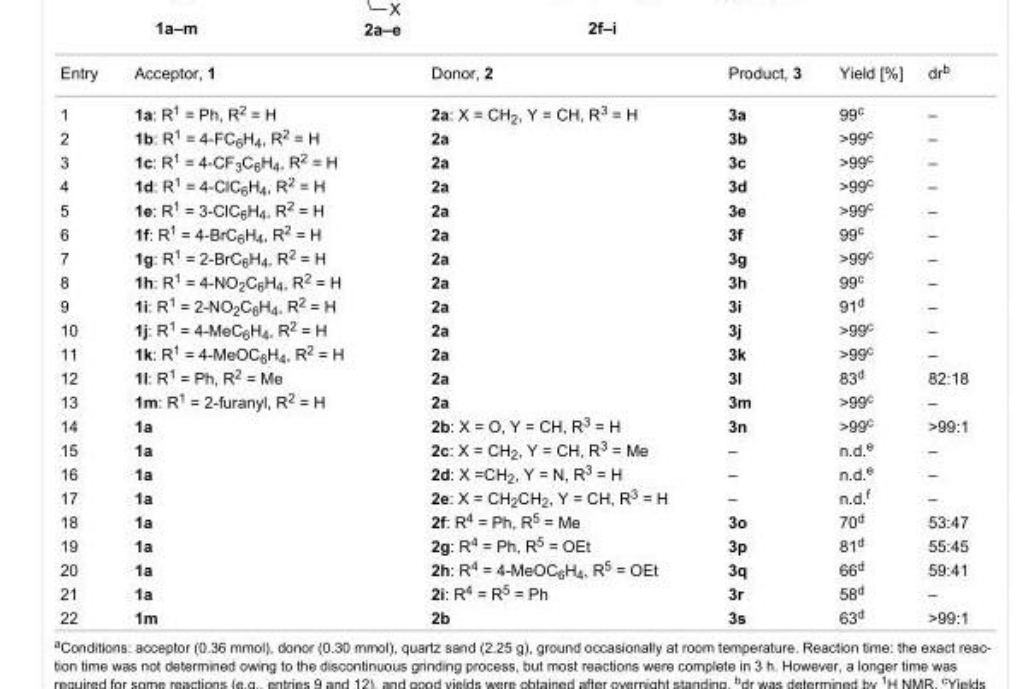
<table><tbody><tr><td>Entry</td><td>Acceptor, 1</td><td>Donor, 2</td><td>Product, 3</td><td>Yield [%]</td><td>dr<sup>b</sup></td></tr><tr><td>1</td><td>1a: R<sup>1</sup> = Ph, R<sup>2</sup> = H</td><td>2a: X = CH<sub>2</sub>, Y = CH, R<sup>3</sup> = H</td><td>3a</td><td>99<sup>c</sup></td><td>–</td></tr><tr><td>2</td><td>1b: R<sup>1</sup> = 4-FC<sub>6</sub>H<sub>4</sub>, R<sup>2</sup> = H</td><td>2a</td><td>3b</td><td>&gt;99<sup>c</sup></td><td>–</td></tr><tr><td>3</td><td>1c: R<sup>1</sup> = 4-CF<sub>3</sub>C<sub>6</sub>H<sub>4</sub>, R<sup>2</sup> = H</td><td>2a</td><td>3c</td><td>&gt;99<sup>c</sup></td><td>–</td></tr><tr><td>4</td><td>1d: R<sup>1</sup> = 4-ClC<sub>6</sub>H<sub>4</sub>, R<sup>2</sup> = H</td><td>2a</td><td>3d</td><td>&gt;99<sup>c</sup></td><td>–</td></tr><tr><td>5</td><td>1e: R<sup>1</sup> = 3-ClC<sub>6</sub>H<sub>4</sub>, R<sup>2</sup> = H</td><td>2a</td><td>3e</td><td>&gt;99<sup>c</sup></td><td>–</td></tr><tr><td>6</td><td>1f: R<sup>1</sup> = 4-BrC<sub>6</sub>H<sub>4</sub>, R<sup>2</sup> = H</td><td>2a</td><td>3f</td><td>99<sup>c</sup></td><td>–</td></tr><tr><td>7</td><td>1g: R<sup>1</sup> = 2-BrC<sub>6</sub>H<sub>4</sub>, R<sup>2</sup> = H</td><td>2a</td><td>3g</td><td>&gt;99<sup>c</sup></td><td>–</td></tr><tr><td>8</td><td>1h: R<sup>1</sup> = 4-NO<sub>2</sub>C<sub>6</sub>H<sub>4</sub>, R<sup>2</sup> = H</td><td>2a</td><td>3h</td><td>99<sup>c</sup></td><td>–</td></tr><tr><td>9</td><td>1i: R<sup>1</sup> = 2-NO<sub>2</sub>C<sub>6</sub>H<sub>4</sub>, R<sup>2</sup> = H</td><td>2a</td><td>3i</td><td>91<sup>d</sup></td><td>–</td></tr><tr><td>10</td><td>1j: R<sup>1</sup> = 4-MeC<sub>6</sub>H<sub>4</sub>, R<sup>2</sup> = H</td><td>2a</td><td>3j</td><td>&gt;99<sup>c</sup></td><td>–</td></tr><tr><td>11</td><td>1k: R<sup>1</sup> = 4-MeOC<sub>6</sub>H<sub>4</sub>, R<sup>2</sup> = H</td><td>2a</td><td>3k</td><td>&gt;99<sup>c</sup></td><td>–</td></tr><tr><td>12</td><td>1l: R<sup>1</sup> = Ph, R<sup>2</sup> = Me</td><td>2a</td><td>3l</td><td>83<sup>d</sup></td><td>82:18</td></tr><tr><td>13</td><td>1m: R<sup>1</sup> = 2-furanyl, R<sup>2</sup> = H</td><td>2a</td><td>3m</td><td>&gt;99<sup>c</sup></td><td>–</td></tr><tr><td>14</td><td>1a</td><td>2b: X = O, Y = CH, R<sup>3</sup> = H</td><td>3n</td><td>&gt;99<sup>c</sup></td><td>&gt;99:1</td></tr><tr><td>15</td><td>1a</td><td>2c: X = CH<sub>2</sub>, Y = CH, R<sup>3</sup> = Me</td><td>–</td><td>n.d.<sup>e</sup></td><td>–</td></tr><tr><td>16</td><td>1a</td><td>2d: X =CH<sub>2</sub>, Y = N, R<sup>3</sup> = H</td><td>–</td><td>n.d.<sup>e</sup></td><td>–</td></tr><tr><td>17</td><td>1a</td><td>2e: X = CH<sub>2</sub>CH<sub>2</sub>, Y = CH, R<sup>3</sup> = H</td><td>–</td><td>n.d.<sup>f</sup></td><td>–</td></tr><tr><td>18</td><td>1a</td><td>2f: R<sup>4</sup> = Ph, R<sup>5</sup> = Me</td><td>3o</td><td>70<sup>d</sup></td><td>53:47</td></tr><tr><td>19</td><td>1a</td><td>2g: R<sup>4</sup> = Ph, R<sup>5</sup> = OEt</td><td>3p</td><td>81<sup>d</sup></td><td>55:45</td></tr><tr><td>20</td><td>1a</td><td>2h: R<sup>4</sup> = 4-MeOC<sub>6</sub>H<sub>4</sub>, R<sup>5</sup> = OEt</td><td>3q</td><td>66<sup>d</sup></td><td>59:41</td></tr><tr><td>21</td><td>1a</td><td>2i: R<sup>4</sup> = R<sup>5</sup> = Ph</td><td>3r</td><td>58<sup>d</sup></td><td>–</td></tr><tr><td>22</td><td>1m</td><td>2b</td><td>3s</td><td>63<sup>d</sup></td><td>&gt;99:1</td></tr></tbody></table>